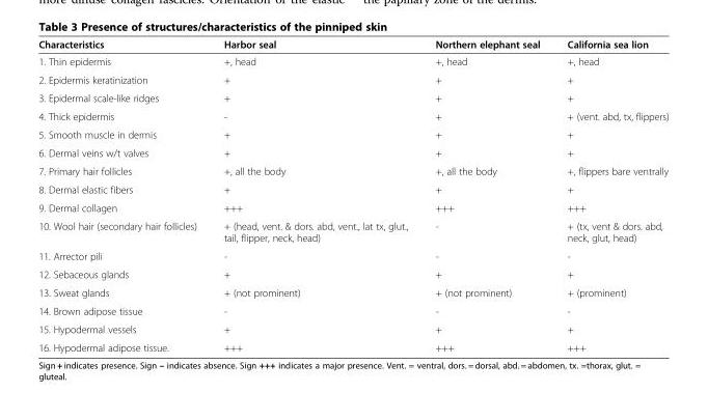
<table><thead><tr><td>Characteristics</td><td>Harbor seal</td><td>Northern elephant seal</td><td>California sea lion</td></tr></thead><tbody><tr><td>1. Thin epidermis</td><td>+, head</td><td>+, head</td><td>+, head</td></tr><tr><td>2. Epidermis keratinization</td><td>+</td><td>+</td><td>+</td></tr><tr><td>3. Epidermal scale-like ridges</td><td>+</td><td>+</td><td>+</td></tr><tr><td>4. Thick epidermis</td><td>-</td><td>+</td><td>+ (vent. abd, tx, flippers)</td></tr><tr><td>5. Smooth muscle in dermis</td><td>+</td><td>+</td><td>+</td></tr><tr><td>6. Dermal veins w/t valves</td><td>+</td><td>+</td><td>+</td></tr><tr><td>7. Primary hair follicles</td><td>+, all the body</td><td>+, all the body</td><td>+, flippers bare ventrally</td></tr><tr><td>8. Dermal elastic fibers</td><td>+</td><td>+</td><td>+</td></tr><tr><td>9. Dermal collagen</td><td>+++</td><td>+++</td><td>+++</td></tr><tr><td>10. Wool hair (secondary hair follicles)</td><td>+ (head, vent. &amp; dors. abd, vent., lat tx, glut., tail, flipper, neck, head)</td><td>-</td><td>+ (tx, vent &amp; dors. abd, neck, glut, head)</td></tr><tr><td>11. Arrector pili</td><td>-</td><td>-</td><td>-</td></tr><tr><td>12. Sebaceous glands</td><td>+</td><td>+</td><td>+</td></tr><tr><td>13. Sweat glands</td><td>+ (not prominent)</td><td>+ (not prominent)</td><td>+ (prominent)</td></tr><tr><td>14. Brown adipose tissue</td><td>-</td><td>-</td><td>-</td></tr><tr><td>15. Hypodermal vessels</td><td>+</td><td>+</td><td>+</td></tr><tr><td>16. Hypodermal adipose tissue.</td><td>+++</td><td>+++</td><td>+++</td></tr></tbody></table>